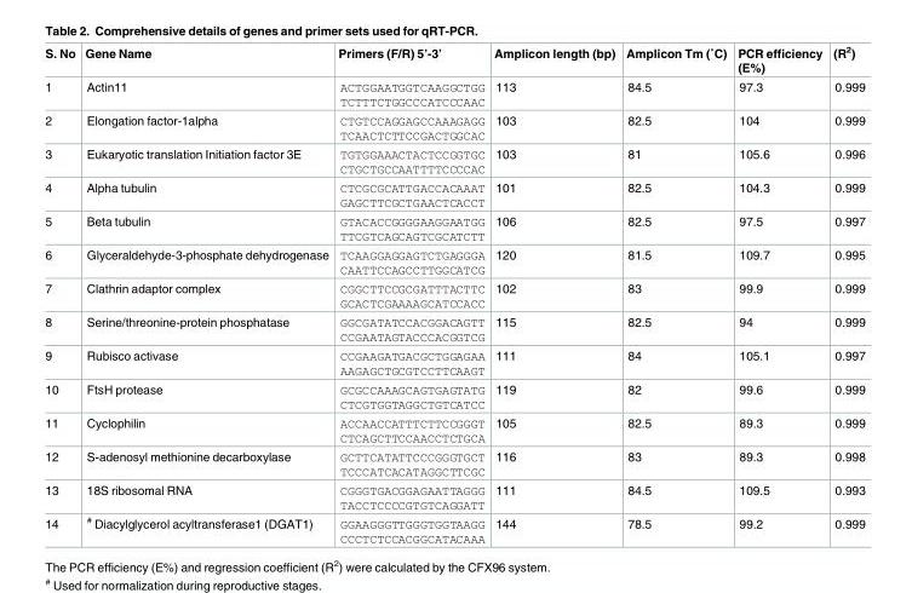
<table><thead><tr><td>S. No</td><td>Gene Name</td><td>Primers (F/R) 5’-3’</td><td>Amplicon length (bp)</td><td>Amplicon Tm (˚C)</td><td>PCR efficiency (E%)</td><td>(R<sup>2</sup>)</td></tr></thead><tbody><tr><td>1</td><td>Actin11</td><td>ACTGGAATGGTCAAGGCTGG TCTTTCTGGCCCATCCCAAC</td><td>113</td><td>84.5</td><td>97.3</td><td>0.999</td></tr><tr><td>2</td><td>Elongation factor-1alpha</td><td>CTGTCCAGGAGCCAAAGAGG TCAACTCTTCCGACTGGCAC</td><td>103</td><td>82.5</td><td>104</td><td>0.999</td></tr><tr><td>3</td><td>Eukaryotic translation Initiation factor 3E</td><td>TGTGGAAACTACTCCGGTGC CTGCTGCCAATTTTCCCCAC</td><td>103</td><td>81</td><td>105.6</td><td>0.996</td></tr><tr><td>4</td><td>Alpha tubulin</td><td>CTCGCGCATTGACCACAAAT GAGCTTCGCTGAACTCACCT</td><td>101</td><td>82.5</td><td>104.3</td><td>0.999</td></tr><tr><td>5</td><td>Beta tubulin</td><td>GTACACCGGGGAAGGAATGG TTCGTCAGCAGTCGCATCTT</td><td>106</td><td>82.5</td><td>97.5</td><td>0.997</td></tr><tr><td>6</td><td>Glyceraldehyde-3-phosphate dehydrogenase</td><td>TCAAGGAGGAGTCTGAGGGA CAATTCCAGCCTTGGCATCG</td><td>120</td><td>81.5</td><td>109.7</td><td>0.995</td></tr><tr><td>7</td><td>Clathrin adaptor complex</td><td>CGGCTTCCGCGATTTACTTC GCACTCGAAAAGCATCCACC</td><td>102</td><td>83</td><td>99.9</td><td>0.999</td></tr><tr><td>8</td><td>Serine/threonine-protein phosphatase</td><td>GGCGATATCCACGGACAGTT CCGAATAGTACCCACGGTCG</td><td>115</td><td>82.5</td><td>94</td><td>0.999</td></tr><tr><td>9</td><td>Rubisco activase</td><td>CCGAAGATGACGCTGGAGAA AAGAGCTGCGTCCTTCAAGT</td><td>111</td><td>84</td><td>105.1</td><td>0.997</td></tr><tr><td>10</td><td>FtsH protease</td><td>GCGCCAAAGCAGTGAGTATG CTCGTGGTAGGCTGTCATCC</td><td>119</td><td>82</td><td>99.6</td><td>0.999</td></tr><tr><td>11</td><td>Cyclophilin</td><td>ACCAACCATTTCTTCCGGGT CTCAGCTTCCAACCTCTGCA</td><td>105</td><td>82.5</td><td>89.3</td><td>0.999</td></tr><tr><td>12</td><td>S-adenosyl methionine decarboxylase</td><td>GCTTCATATTCCCGGGTGCT TCCCATCACATAGGCTTCGC</td><td>116</td><td>83</td><td>89.3</td><td>0.998</td></tr><tr><td>13</td><td>18S ribosomal RNA</td><td>CGGGTGACGGAGAATTAGGG TACCTCCCCGTGTCAGGATT</td><td>111</td><td>84.5</td><td>109.5</td><td>0.993</td></tr><tr><td>14</td><td><sup>#</sup> Diacylglycerol acyltransferase1 (DGAT1)</td><td>GGAAGGGTTGGGTGGTAAGG CCCTCTCCACGGCATACAAA</td><td>144</td><td>78.5</td><td>99.2</td><td>0.999</td></tr></tbody></table>